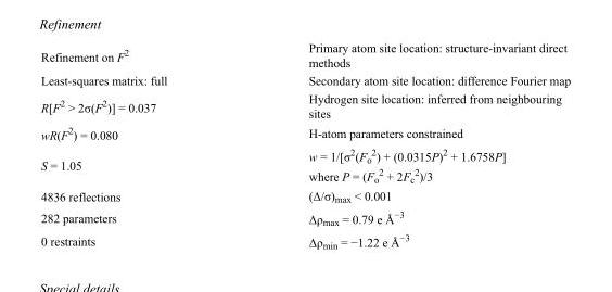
<table><tbody><tr><td>Refinement on F<sup>2</sup></td><td>Primary atom site location: structure-invariant direct methods</td></tr><tr><td>Least-squares matrix: full</td><td>Secondary atom site location: difference Fourier map</td></tr><tr><td>R[F<sup>2</sup> &gt; 2σ(F<sup>2</sup>)] = 0.037</td><td>Hydrogen site location: inferred from neighbouring sites</td></tr><tr><td>wR(F<sup>2</sup>) = 0.080</td><td>H-atom parameters constrained</td></tr><tr><td>S = 1.05</td><td>w = 1/[σ<sup>2</sup>(F<sub>o</sub> <sup>2</sup>) + (0.0315P)<sup>2</sup> + 1.6758P] where P = (F<sub>o</sub> <sup>2</sup> + 2F<sub>c</sub> <sup>2</sup>)/3</td></tr><tr><td>4836 reflections</td><td>(Δ/σ)<sub>max</sub> &lt; 0.001</td></tr><tr><td>282 parameters</td><td>Δρ<sub>max</sub> = 0.79 e Å<sup>−3</sup></td></tr><tr><td>0 restraints</td><td>Δρ<sub>min</sub> = −1.22 e Å<sup>−3</sup></td></tr></tbody></table>